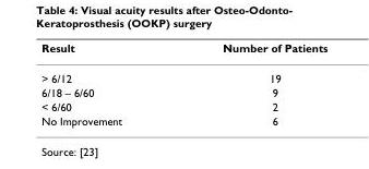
<table><thead><tr><td>Result</td><td>Number of Patients</td></tr></thead><tbody><tr><td>&gt; 6/12</td><td>19</td></tr><tr><td>6/18 – 6/60</td><td>9</td></tr><tr><td>&lt; 6/60</td><td>2</td></tr><tr><td>No Improvement</td><td>6</td></tr></tbody></table>